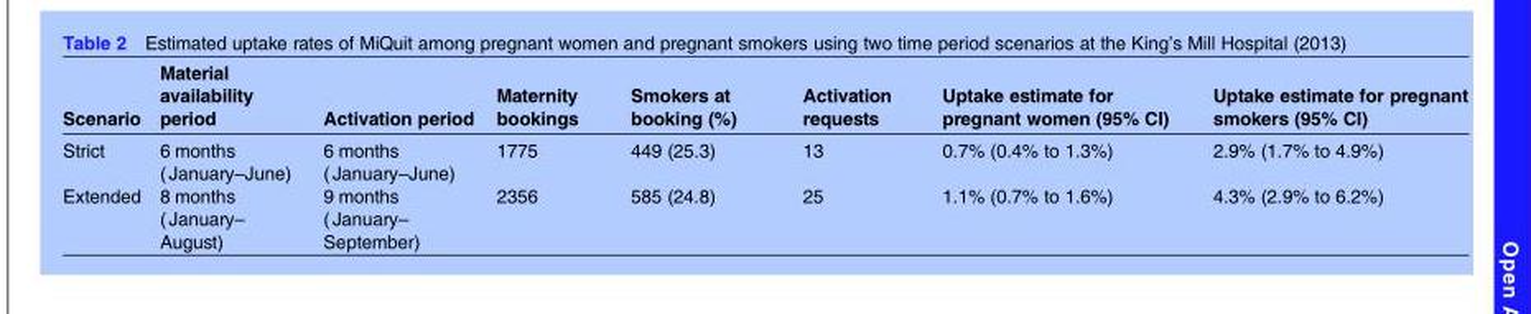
<table><thead><tr><td>Scenario</td><td>Material availability period</td><td>Activation period</td><td>Maternity bookings</td><td>Smokers at booking (%)</td><td>Activation requests</td><td>Uptake estimate for pregnant women (95% CI)</td><td>Uptake estimate for pregnant smokers (95% CI)</td></tr></thead><tbody><tr><td>Strict</td><td>6 months ( January–June)</td><td>6 months ( January–June)</td><td>1775</td><td>449 (25.3)</td><td>13</td><td>0.7% (0.4% to 1.3%)</td><td>2.9% (1.7% to 4.9%)</td></tr><tr><td>Extended</td><td>8 months ( January– August)</td><td>9 months ( January– September)</td><td>2356</td><td>585 (24.8)</td><td>25</td><td>1.1% (0.7% to 1.6%)</td><td>4.3% (2.9% to 6.2%)</td></tr></tbody></table>